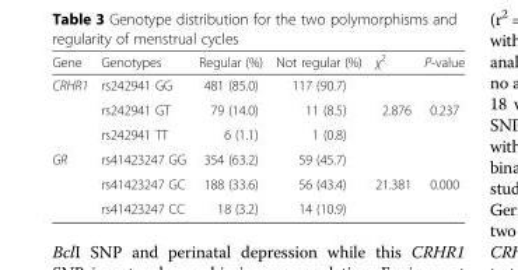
<table><thead><tr><td>Gene</td><td>Genotypes</td><td>Regular (%)</td><td>Not regular (%)</td><td>χ<sup>2</sup></td><td>P-value</td></tr></thead><tbody><tr><td rowspan="3">CRHR1</td><td>rs242941 GG</td><td>481 (85.0)</td><td>117 (90.7)</td><td></td><td></td></tr><tr><td>rs242941 GT</td><td>79 (14.0)</td><td>11 (8.5)</td><td>2.876</td><td>0.237</td></tr><tr><td>rs242941 TT</td><td>6 (1.1)</td><td>1 (0.8)</td><td></td><td></td></tr><tr><td rowspan="3">GR</td><td>rs41423247 GG</td><td>354 (63.2)</td><td>59 (45.7)</td><td></td><td></td></tr><tr><td>rs41423247 GC</td><td>188 (33.6)</td><td>56 (43.4)</td><td>21.381</td><td>0.000</td></tr><tr><td>rs41423247 CC</td><td>18 (3.2)</td><td>14 (10.9)</td><td></td><td></td></tr></tbody></table>